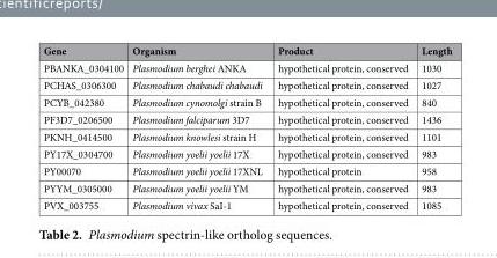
<table><thead><tr><td>Gene</td><td>Organism</td><td>Product</td><td>Length</td></tr></thead><tbody><tr><td>PBANKA_0304100</td><td>Plasmodium berghei ANKA</td><td>hypothetical protein, conserved</td><td>1030</td></tr><tr><td>PCHAS_0306300</td><td>Plasmodium chabaudi chabaudi</td><td>hypothetical protein, conserved</td><td>1027</td></tr><tr><td>PCYB_042380</td><td>Plasmodium cynomolgi strain B</td><td>hypothetical protein, conserved</td><td>840</td></tr><tr><td>PF3D7_0206500</td><td>Plasmodium falciparum 3D7</td><td>hypothetical protein, conserved</td><td>1436</td></tr><tr><td>PKNH_0414500</td><td>Plasmodium knowlesi strain H</td><td>hypothetical protein, conserved</td><td>1101</td></tr><tr><td>PY17X_0304700</td><td>Plasmodium yoelii yoelii 17X</td><td>hypothetical protein, conserved</td><td>983</td></tr><tr><td>PY00070</td><td>Plasmodium yoelii yoelii 17XNL</td><td>hypothetical protein</td><td>958</td></tr><tr><td>PYYM_0305000</td><td>Plasmodium yoelii yoelii YM</td><td>hypothetical protein, conserved</td><td>983</td></tr><tr><td>PVX_003755</td><td>Plasmodium vivax SaI-1</td><td>hypothetical protein, conserved</td><td>1085</td></tr></tbody></table>